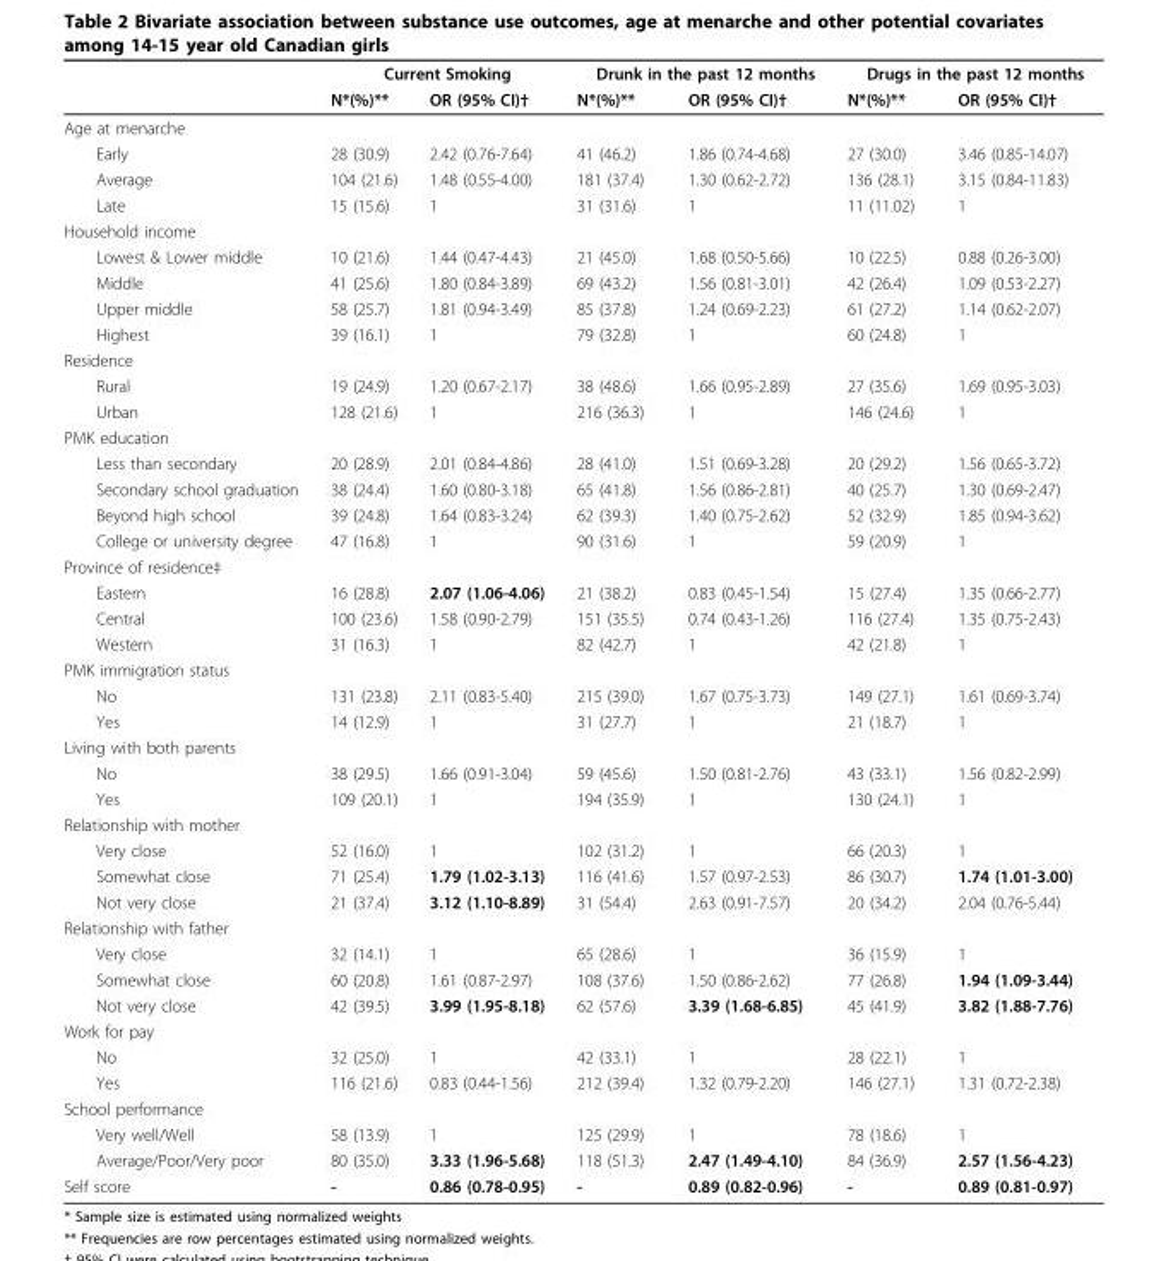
<table><thead><tr><td rowspan="2"></td><td colspan="2">Current Smoking</td><td colspan="2">Drunk in the past 12 months</td><td colspan="2">Drugs in the past 12 months</td></tr><tr><td>N*(%)**</td><td>OR (95% CI)†</td><td>N*(%)**</td><td>OR (95% CI)†</td><td>N*(%)**</td><td>OR (95% CI)†</td></tr></thead><tbody><tr><td colspan="7">Age at menarche</td></tr><tr><td>Early</td><td>28 (30.9)</td><td>2.42 (0.76-7.64)</td><td>41 (46.2)</td><td>1.86 (0.74-4.68)</td><td>27 (30.0)</td><td>3.46 (0.85-14.07)</td></tr><tr><td>Average</td><td>104 (21.6)</td><td>1.48 (0.55-4.00)</td><td>181 (37.4)</td><td>1.30 (0.62-2.72)</td><td>136 (28.1)</td><td>3.15 (0.84-11.83)</td></tr><tr><td>Late</td><td>15 (15.6)</td><td>1</td><td>31 (31.6)</td><td>1</td><td>11 (11.02)</td><td>1</td></tr><tr><td colspan="7">Household income</td></tr><tr><td>Lowest &amp; Lower middle</td><td>10 (21.6)</td><td>1.44 (0.47-4.43)</td><td>21 (45.0)</td><td>1.68 (0.50-5.66)</td><td>10 (22.5)</td><td>0.88 (0.26-3.00)</td></tr><tr><td>Middle</td><td>41 (25.6)</td><td>1.80 (0.84-3.89)</td><td>69 (43.2)</td><td>1.56 (0.81-3.01)</td><td>42 (26.4)</td><td>1.09 (0.53-2.27)</td></tr><tr><td>Upper middle</td><td>58 (25.7)</td><td>1.81 (0.94-3.49)</td><td>85 (37.8)</td><td>1.24 (0.69-2.23)</td><td>61 (27.2)</td><td>1.14 (0.62-2.07)</td></tr><tr><td>Highest</td><td>39 (16.1)</td><td>1</td><td>79 (32.8)</td><td>1</td><td>60 (24.8)</td><td>1</td></tr><tr><td colspan="7">Residence</td></tr><tr><td>Rural</td><td>19 (24.9)</td><td>1.20 (0.67-2.17)</td><td>38 (48.6)</td><td>1.66 (0.95-2.89)</td><td>27 (35.6)</td><td>1.69 (0.95-3.03)</td></tr><tr><td>Urban</td><td>128 (21.6)</td><td>1</td><td>216 (36.3)</td><td>1</td><td>146 (24.6)</td><td>1</td></tr><tr><td colspan="7">PMK education</td></tr><tr><td>Less than secondary</td><td>20 (28.9)</td><td>2.01 (0.84-4.86)</td><td>28 (41.0)</td><td>1.51 (0.69-3.28)</td><td>20 (29.2)</td><td>1.56 (0.65-3.72)</td></tr><tr><td>Secondary school graduation</td><td>38 (24.4)</td><td>1.60 (0.80-3.18)</td><td>65 (41.8)</td><td>1.56 (0.86-2.81)</td><td>40 (25.7)</td><td>1.30 (0.69-2.47)</td></tr><tr><td>Beyond high school</td><td>39 (24.8)</td><td>1.64 (0.83-3.24)</td><td>62 (39.3)</td><td>1.40 (0.75-2.62)</td><td>52 (32.9)</td><td>1.85 (0.94-3.62)</td></tr><tr><td>College or university degree</td><td>47 (16.8)</td><td>1</td><td>90 (31.6)</td><td>1</td><td>59 (20.9)</td><td>1</td></tr><tr><td colspan="7">Province of residence‡</td></tr><tr><td>Eastern</td><td>16 (28.8)</td><td>2.07 (1.06-4.06)</td><td>21 (38.2)</td><td>0.83 (0.45-1.54)</td><td>15 (27.4)</td><td>1.35 (0.66-2.77)</td></tr><tr><td>Central</td><td>100 (23.6)</td><td>1.58 (0.90-2.79)</td><td>151 (35.5)</td><td>0.74 (0.43-1.26)</td><td>116 (27.4)</td><td>1.35 (0.75-2.43)</td></tr><tr><td>Western</td><td>31 (16.3)</td><td>1</td><td>82 (42.7)</td><td>1</td><td>42 (21.8)</td><td>1</td></tr><tr><td colspan="7">PMK immigration status</td></tr><tr><td>No</td><td>131 (23.8)</td><td>2.11 (0.83-5.40)</td><td>215 (39.0)</td><td>1.67 (0.75-3.73)</td><td>149 (27.1)</td><td>1.61 (0.69-3.74)</td></tr><tr><td>Yes</td><td>14 (12.9)</td><td>1</td><td>31 (27.7)</td><td>1</td><td>21 (18.7)</td><td>1</td></tr><tr><td colspan="7">Living with both parents</td></tr><tr><td>No</td><td>38 (29.5)</td><td>1.66 (0.91-3.04)</td><td>59 (45.6)</td><td>1.50 (0.81-2.76)</td><td>43 (33.1)</td><td>1.56 (0.82-2.99)</td></tr><tr><td>Yes</td><td>109 (20.1)</td><td>1</td><td>194 (35.9)</td><td>1</td><td>130 (24.1)</td><td>1</td></tr><tr><td colspan="7">Relationship with mother</td></tr><tr><td>Very close</td><td>52 (16.0)</td><td>1</td><td>102 (31.2)</td><td>1</td><td>66 (20.3)</td><td>1</td></tr><tr><td>Somewhat close</td><td>71 (25.4)</td><td>1.79 (1.02-3.13)</td><td>116 (41.6)</td><td>1.57 (0.97-2.53)</td><td>86 (30.7)</td><td>1.74 (1.01-3.00)</td></tr><tr><td>Not very close</td><td>21 (37.4)</td><td>3.12 (1.10-8.89)</td><td>31 (54.4)</td><td>2.63 (0.91-7.57)</td><td>20 (34.2)</td><td>2.04 (0.76-5.44)</td></tr><tr><td colspan="7">Relationship with father</td></tr><tr><td>Very close</td><td>32 (14.1)</td><td>1</td><td>65 (28.6)</td><td>1</td><td>36 (15.9)</td><td>1</td></tr><tr><td>Somewhat close</td><td>60 (20.8)</td><td>1.61 (0.87-2.97)</td><td>108 (37.6)</td><td>1.50 (0.86-2.62)</td><td>77 (26.8)</td><td>1.94 (1.09-3.44)</td></tr><tr><td>Not very close</td><td>42 (39.5)</td><td>3.99 (1.95-8.18)</td><td>62 (57.6)</td><td>3.39 (1.68-6.85)</td><td>45 (41.9)</td><td>3.82 (1.88-7.76)</td></tr><tr><td colspan="7">Work for pay</td></tr><tr><td>No</td><td>32 (25.0)</td><td>1</td><td>42 (33.1)</td><td>1</td><td>28 (22.1)</td><td>1</td></tr><tr><td>Yes</td><td>116 (21.6)</td><td>0.83 (0.44-1.56)</td><td>212 (39.4)</td><td>1.32 (0.79-2.20)</td><td>146 (27.1)</td><td>1.31 (0.72-2.38)</td></tr><tr><td colspan="7">School performance</td></tr><tr><td>Very well/Well</td><td>58 (13.9)</td><td>1</td><td>125 (29.9)</td><td>1</td><td>78 (18.6)</td><td>1</td></tr><tr><td>Average/Poor/Very poor</td><td>80 (35.0)</td><td>3.33 (1.96-5.68)</td><td>118 (51.3)</td><td>2.47 (1.49-4.10)</td><td>84 (36.9)</td><td>2.57 (1.56-4.23)</td></tr><tr><td>Self score</td><td>-</td><td>0.86 (0.78-0.95)</td><td>-</td><td>0.89 (0.82-0.96)</td><td>-</td><td>0.89 (0.81-0.97)</td></tr></tbody></table>